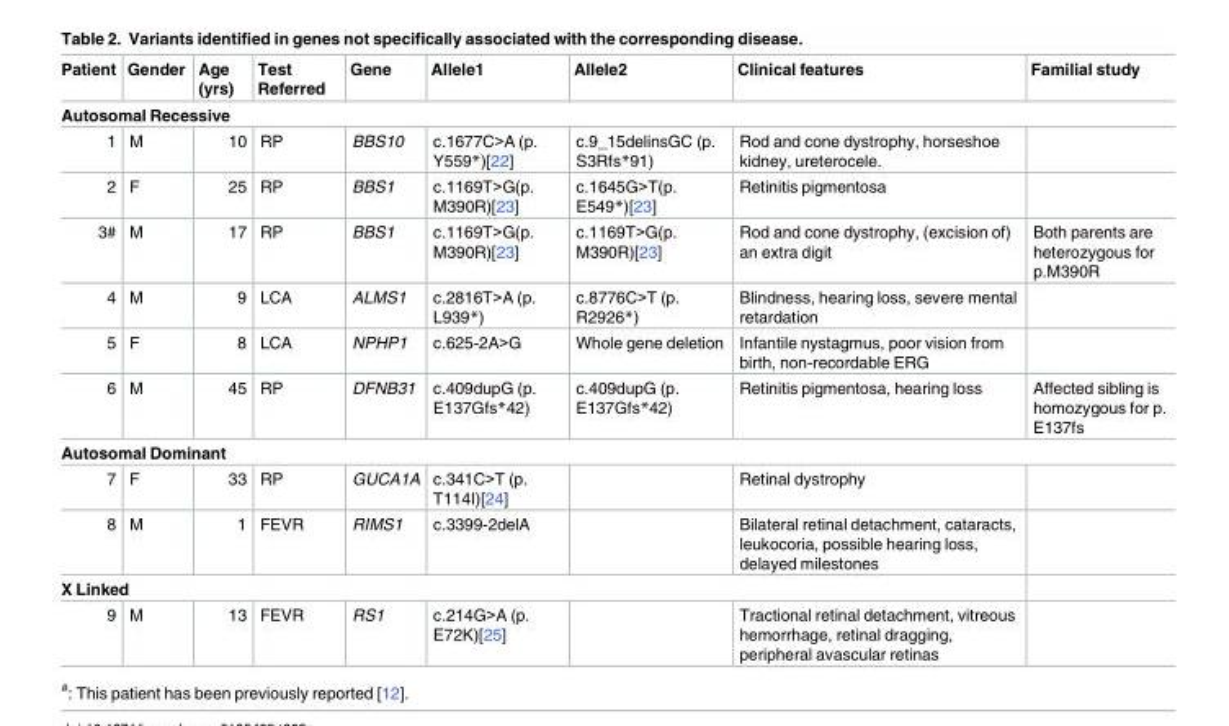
<table><thead><tr><td>Patient</td><td>Gender</td><td>Age (yrs)</td><td>Test Referred</td><td>Gene</td><td>Allele1</td><td>Allele2</td><td>Clinical features</td><td>Familial study</td></tr></thead><tbody><tr><td colspan="9">Autosomal Recessive</td></tr><tr><td>1</td><td>M</td><td>10</td><td>RP</td><td>BBS10</td><td>c.1677C&gt;A (p. Y559*)[22]</td><td>c.9_15delinsGC (p. S3Rfs*91)</td><td>Rod and cone dystrophy, horseshoe kidney, ureterocele.</td><td></td></tr><tr><td>2</td><td>F</td><td>25</td><td>RP</td><td>BBS1</td><td>c.1169T&gt;G(p. M390R)[23]</td><td>c.1645G&gt;T(p. E549*)[23]</td><td>Retinitis pigmentosa</td><td></td></tr><tr><td>3#</td><td>M</td><td>17</td><td>RP</td><td>BBS1</td><td>c.1169T&gt;G(p. M390R)[23]</td><td>c.1169T&gt;G(p. M390R)[23]</td><td>Rod and cone dystrophy, (excision of) an extra digit</td><td>Both parents are heterozygous for p.M390R</td></tr><tr><td>4</td><td>M</td><td>9</td><td>LCA</td><td>ALMS1</td><td>c.2816T&gt;A (p. L939*)</td><td>c.8776C&gt;T (p. R2926*)</td><td>Blindness, hearing loss, severe mental retardation</td><td></td></tr><tr><td>5</td><td>F</td><td>8</td><td>LCA</td><td>NPHP1</td><td>c.625-2A&gt;G</td><td>Whole gene deletion</td><td>Infantile nystagmus, poor vision from birth, non-recordable ERG</td><td></td></tr><tr><td>6</td><td>M</td><td>45</td><td>RP</td><td>DFNB31</td><td>c.409dupG (p. E137Gfs*42)</td><td>c.409dupG (p. E137Gfs*42)</td><td>Retinitis pigmentosa, hearing loss</td><td>Affected sibling is homozygous for p. E137fs</td></tr><tr><td colspan="9">Autosomal Dominant</td></tr><tr><td>7</td><td>F</td><td>33</td><td>RP</td><td>GUCA1A</td><td>c.341C&gt;T (p. T114I)[24]</td><td></td><td>Retinal dystrophy</td><td></td></tr><tr><td>8</td><td>M</td><td>1</td><td>FEVR</td><td>RIMS1</td><td>c.3399-2delA</td><td></td><td>Bilateral retinal detachment, cataracts, leukocoria, possible hearing loss, delayed milestones</td><td></td></tr><tr><td colspan="9">X Linked</td></tr><tr><td>9</td><td>M</td><td>13</td><td>FEVR</td><td>RS1</td><td>c.214G&gt;A (p. E72K)[25]</td><td></td><td>Tractional retinal detachment, vitreous hemorrhage, retinal dragging, peripheral avascular retinas</td><td></td></tr></tbody></table>